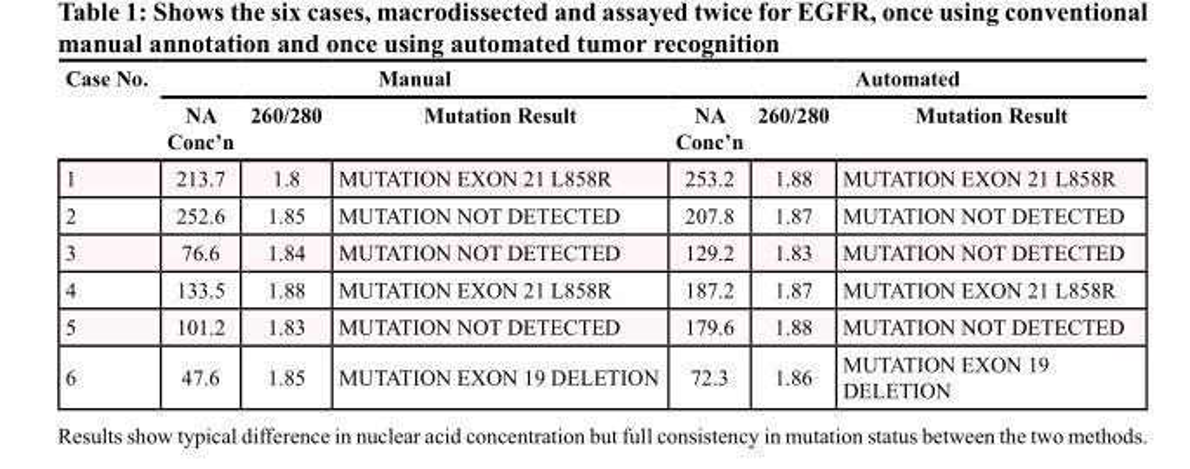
<table><thead><tr><td rowspan="2">Case No.</td><td colspan="3">Manual</td><td colspan="3">Automated</td></tr><tr><td>NA Conc’n</td><td>260/280</td><td>Mutation Result</td><td>NA Conc’n</td><td>260/280</td><td>Mutation Result</td></tr></thead><tbody><tr><td>1</td><td>213.7</td><td>1.8</td><td>MUTATION EXON 21 L858R</td><td>253.2</td><td>1.88</td><td>MUTATION EXON 21 L858R</td></tr><tr><td>2</td><td>252.6</td><td>1.85</td><td>MUTATION NOT DETECTED</td><td>207.8</td><td>1.87</td><td>MUTATION NOT DETECTED</td></tr><tr><td>3</td><td>76.6</td><td>1.84</td><td>MUTATION NOT DETECTED</td><td>129.2</td><td>1.83</td><td>MUTATION NOT DETECTED</td></tr><tr><td>4</td><td>133.5</td><td>1.88</td><td>MUTATION EXON 21 L858R</td><td>187.2</td><td>1.87</td><td>MUTATION EXON 21 L858R</td></tr><tr><td>5</td><td>101.2</td><td>1.83</td><td>MUTATION NOT DETECTED</td><td>179.6</td><td>1.88</td><td>MUTATION NOT DETECTED</td></tr><tr><td>6</td><td>47.6</td><td>1.85</td><td>MUTATION EXON 19 DELETION</td><td>72.3</td><td>1.86</td><td>MUTATION EXON 19 DELETION</td></tr></tbody></table>